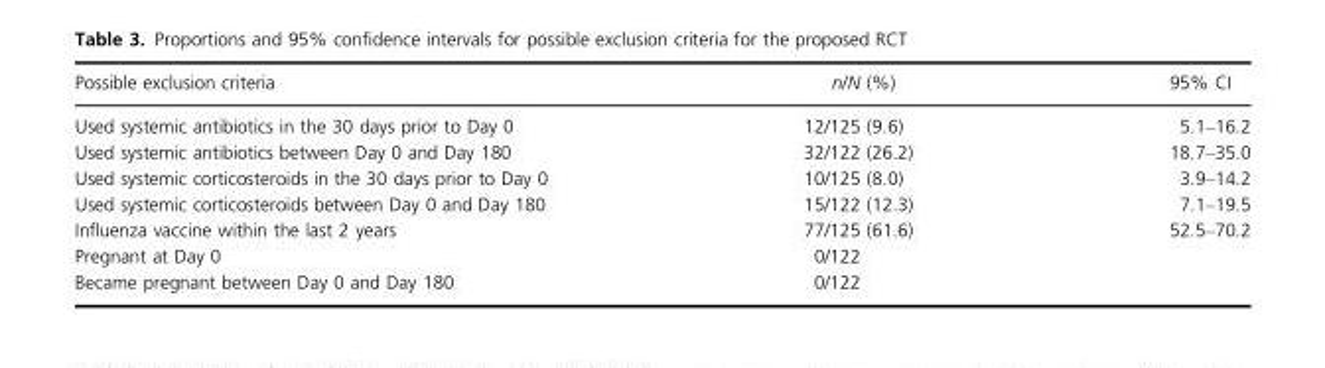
<table><thead><tr><td>Possible exclusion criteria</td><td>n/N (%)</td><td>95% CI</td></tr></thead><tbody><tr><td>Used systemic antibiotics in the 30 days prior to Day 0</td><td>12/125 (9.6)</td><td>5.1–16.2</td></tr><tr><td>Used systemic antibiotics between Day 0 and Day 180</td><td>32/122 (26.2)</td><td>18.7–35.0</td></tr><tr><td>Used systemic corticosteroids in the 30 days prior to Day 0</td><td>10/125 (8.0)</td><td>3.9–14.2</td></tr><tr><td>Used systemic corticosteroids between Day 0 and Day 180</td><td>15/122 (12.3)</td><td>7.1–19.5</td></tr><tr><td>Influenza vaccine within the last 2 years</td><td>77/125 (61.6)</td><td>52.5–70.2</td></tr><tr><td>Pregnant at Day 0</td><td>0/122</td><td></td></tr><tr><td>Became pregnant between Day 0 and Day 180</td><td>0/122</td><td></td></tr></tbody></table>